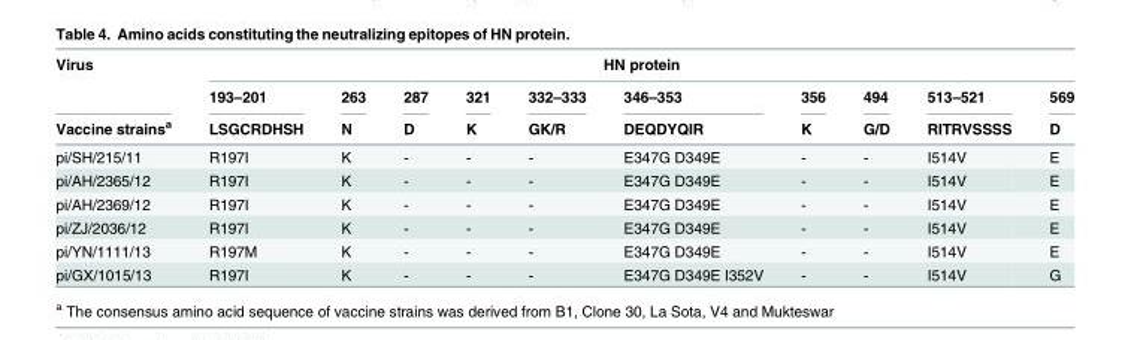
<table><thead><tr><td rowspan="3">Virus Vaccine strains<sup>a</sup></td><td colspan="10">HN protein</td></tr><tr><td rowspan="2">193–201 LSGCRDHSH</td><td rowspan="2">263 N</td><td rowspan="2">287 D</td><td rowspan="2">321 K</td><td rowspan="2">332–333 GK/R</td><td rowspan="2">346–353 DEQDYQIR</td><td rowspan="2">356 K</td><td rowspan="2">494 G/D</td><td rowspan="2">513–521 RITRVSSSS</td><td rowspan="2">569 D</td></tr><tr></tr></thead><tbody><tr><td>pi/SH/215/11</td><td>R197I</td><td>K</td><td>-</td><td>-</td><td>-</td><td>E347G D349E</td><td>-</td><td>-</td><td>I514V</td><td>E</td></tr><tr><td>pi/AH/2365/12</td><td>R197I</td><td>K</td><td>-</td><td>-</td><td>-</td><td>E347G D349E</td><td>-</td><td>-</td><td>I514V</td><td>E</td></tr><tr><td>pi/AH/2369/12</td><td>R197I</td><td>K</td><td>-</td><td>-</td><td>-</td><td>E347G D349E</td><td>-</td><td>-</td><td>I514V</td><td>E</td></tr><tr><td>pi/ZJ/2036/12</td><td>R197I</td><td>K</td><td>-</td><td>-</td><td>-</td><td>E347G D349E</td><td>-</td><td>-</td><td>I514V</td><td>E</td></tr><tr><td>pi/YN/1111/13</td><td>R197M</td><td>K</td><td>-</td><td>-</td><td>-</td><td>E347G D349E</td><td>-</td><td>-</td><td>I514V</td><td>E</td></tr><tr><td>pi/GX/1015/13</td><td>R197I</td><td>K</td><td>-</td><td>-</td><td>-</td><td>E347G D349E I352V</td><td>-</td><td>-</td><td>I514V</td><td>G</td></tr></tbody></table>